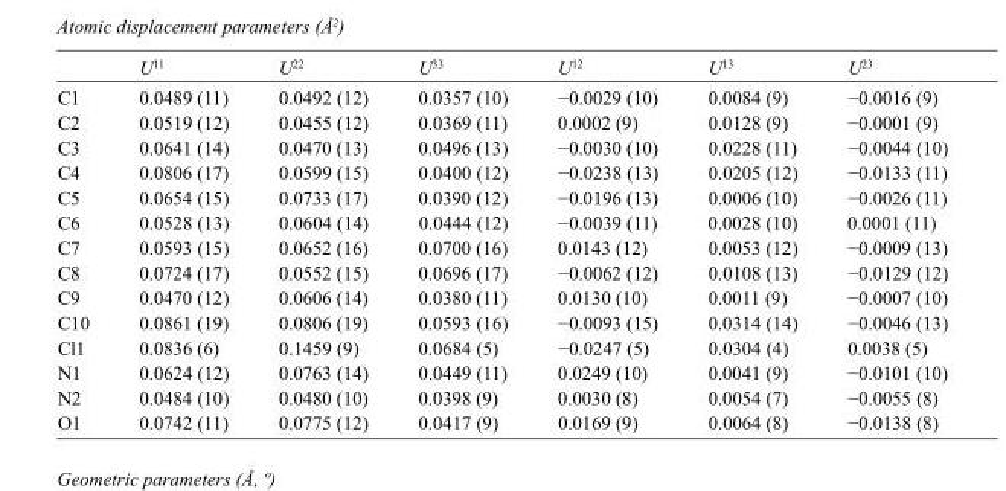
<table><thead><tr><td></td><td>U<sup>11</sup></td><td>U<sup>22</sup></td><td>U<sup>33</sup></td><td>U<sup>12</sup></td><td>U<sup>13</sup></td><td>U<sup>23</sup></td></tr></thead><tbody><tr><td>C1</td><td>0.0489 (11)</td><td>0.0492 (12)</td><td>0.0357 (10)</td><td>−0.0029 (10)</td><td>0.0084 (9)</td><td>−0.0016 (9)</td></tr><tr><td>C2</td><td>0.0519 (12)</td><td>0.0455 (12)</td><td>0.0369 (11)</td><td>0.0002 (9)</td><td>0.0128 (9)</td><td>−0.0001 (9)</td></tr><tr><td>C3</td><td>0.0641 (14)</td><td>0.0470 (13)</td><td>0.0496 (13)</td><td>−0.0030 (10)</td><td>0.0228 (11)</td><td>−0.0044 (10)</td></tr><tr><td>C4</td><td>0.0806 (17)</td><td>0.0599 (15)</td><td>0.0400 (12)</td><td>−0.0238 (13)</td><td>0.0205 (12)</td><td>−0.0133 (11)</td></tr><tr><td>C5</td><td>0.0654 (15)</td><td>0.0733 (17)</td><td>0.0390 (12)</td><td>−0.0196 (13)</td><td>0.0006 (10)</td><td>−0.0026 (11)</td></tr><tr><td>C6</td><td>0.0528 (13)</td><td>0.0604 (14)</td><td>0.0444 (12)</td><td>−0.0039 (11)</td><td>0.0028 (10)</td><td>0.0001 (11)</td></tr><tr><td>C7</td><td>0.0593 (15)</td><td>0.0652 (16)</td><td>0.0700 (16)</td><td>0.0143 (12)</td><td>0.0053 (12)</td><td>−0.0009 (13)</td></tr><tr><td>C8</td><td>0.0724 (17)</td><td>0.0552 (15)</td><td>0.0696 (17)</td><td>−0.0062 (12)</td><td>0.0108 (13)</td><td>−0.0129 (12)</td></tr><tr><td>C9</td><td>0.0470 (12)</td><td>0.0606 (14)</td><td>0.0380 (11)</td><td>0.0130 (10)</td><td>0.0011 (9)</td><td>−0.0007 (10)</td></tr><tr><td>C10</td><td>0.0861 (19)</td><td>0.0806 (19)</td><td>0.0593 (16)</td><td>−0.0093 (15)</td><td>0.0314 (14)</td><td>−0.0046 (13)</td></tr><tr><td>Cl1</td><td>0.0836 (6)</td><td>0.1459 (9)</td><td>0.0684 (5)</td><td>−0.0247 (5)</td><td>0.0304 (4)</td><td>0.0038 (5)</td></tr><tr><td>N1</td><td>0.0624 (12)</td><td>0.0763 (14)</td><td>0.0449 (11)</td><td>0.0249 (10)</td><td>0.0041 (9)</td><td>−0.0101 (10)</td></tr><tr><td>N2</td><td>0.0484 (10)</td><td>0.0480 (10)</td><td>0.0398 (9)</td><td>0.0030 (8)</td><td>0.0054 (7)</td><td>−0.0055 (8)</td></tr><tr><td>O1</td><td>0.0742 (11)</td><td>0.0775 (12)</td><td>0.0417 (9)</td><td>0.0169 (9)</td><td>0.0064 (8)</td><td>−0.0138 (8)</td></tr></tbody></table>